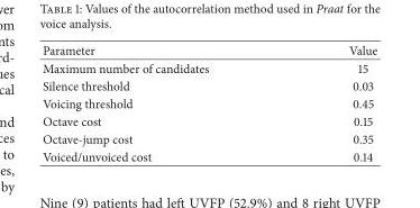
<table><thead><tr><td>Parameter</td><td>Value</td></tr></thead><tbody><tr><td>Maximum number of candidates</td><td>15</td></tr><tr><td>Silence threshold</td><td>0.03</td></tr><tr><td>Voicing threshold</td><td>0.45</td></tr><tr><td>Octave cost</td><td>0.15</td></tr><tr><td>Octave-jump cost</td><td>0.35</td></tr><tr><td>Voiced/unvoiced cost</td><td>0.14</td></tr></tbody></table>